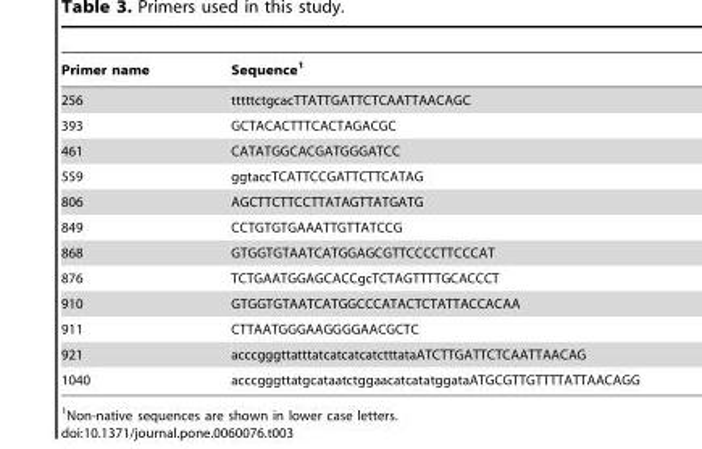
<table><thead><tr><td>Primer name</td><td>Sequence<sup>1</sup></td></tr></thead><tbody><tr><td>256</td><td>tttttctgcacTTATTGATTCTCAATTAACAGC</td></tr><tr><td>393</td><td>GCTACACTTTCACTAGACGC</td></tr><tr><td>461</td><td>CATATGGCACGATGGGATCC</td></tr><tr><td>559</td><td>ggtaccTCATTCCGATTCTTCATAG</td></tr><tr><td>806</td><td>AGCTTCTTCCTTATAGTTATGATG</td></tr><tr><td>849</td><td>CCTGTGTGAAATTGTTATCCG</td></tr><tr><td>868</td><td>GTGGTGTAATCATGGAGCGTTCCCCTTCCCAT</td></tr><tr><td>876</td><td>TCTGAATGGAGCACCgcTCTAGTTTTGCACCCT</td></tr><tr><td>910</td><td>GTGGTGTAATCATGGCCCATACTCTATTACCACAA</td></tr><tr><td>911</td><td>CTTAATGGGAAGGGGAACGCTC</td></tr><tr><td>921</td><td>acccgggttatttatcatcatcatctttataATCTTGATTCTCAATTAACAG</td></tr><tr><td>1040</td><td>acccgggttatgcataatctggaacatcatatggataATGCGTTGTTTTATTAACAGG</td></tr></tbody></table>